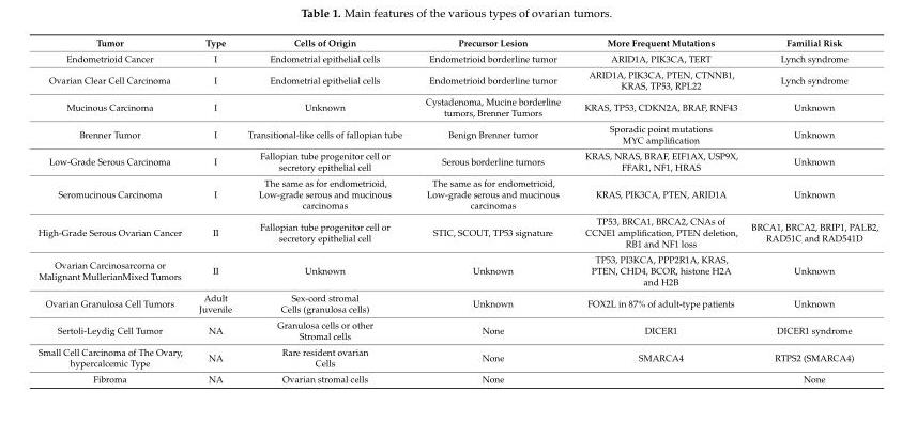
<table><thead><tr><td>Tumor</td><td>Type</td><td>Cells of Origin</td><td>Precursor Lesion</td><td>More Frequent Mutations</td><td>Familial Risk</td></tr></thead><tbody><tr><td>Endometrioid Cancer</td><td>I</td><td>Endometrial epithelial cells</td><td>Endometrioid borderline tumor</td><td>ARID1A, PIK3CA, TERT</td><td>Lynch syndrome</td></tr><tr><td>Ovarian Clear Cell Carcinoma</td><td>I</td><td>Endometrial epithelial cells</td><td>Endometrioid borderline tumor</td><td>ARID1A, PIK3CA, PTEN, CTNNB1, KRAS, TP53, RPL22</td><td>Lynch syndrome</td></tr><tr><td>Mucinous Carcinoma</td><td>I</td><td>Unknown</td><td>Cystadenoma, Mucine borderline tumors, Brenner Tumors</td><td>KRAS, TP53, CDKN2A, BRAF, RNF43</td><td>Unknown</td></tr><tr><td>Brenner Tumor</td><td>I</td><td>Transitional-like cells of fallopian tube</td><td>Benign Brenner tumor</td><td>Sporadic point mutations MYC amplification</td><td>Unknown</td></tr><tr><td>Low-Grade Serous Carcinoma</td><td>I</td><td>Fallopian tube progenitor cell or secretory epithelial cell</td><td>Serous borderline tumors</td><td>KRAS, NRAS, BRAF, EIF1AX, USP9X, FFAR1, NF1, HRAS</td><td>Unknown</td></tr><tr><td>Seromucinous Carcinoma</td><td>I</td><td>The same as for endometrioid, Low-grade serous and mucinous carcinomas</td><td>The same as for endometrioid, Low-grade serous and mucinous carcinomas</td><td>KRAS, PIK3CA, PTEN, ARID1A</td><td>Unknown</td></tr><tr><td>High-Grade Serous Ovarian Cancer</td><td>II</td><td>Fallopian tube progenitor cell or secretory epithelial cell</td><td>STIC, SCOUT, TP53 signature</td><td>TP53, BRCA1, BRCA2, CNAs of CCNE1 amplification, PTEN deletion, RB1 and NF1 loss</td><td>BRCA1, BRCA2, BRIP1, PALB2, RAD51C and RAD541D</td></tr><tr><td>Ovarian Carcinosarcoma or Malignant MullerianMixed Tumors</td><td>II</td><td>Unknown</td><td>Unknown</td><td>TP53, PI3KCA, PPP2R1A, KRAS, PTEN, CHD4, BCOR, histone H2A and H2B</td><td>Unknown</td></tr><tr><td>Ovarian Granulosa Cell Tumors</td><td>Adult Juvenile</td><td>Sex-cord stromal Cells (granulosa cells)</td><td>Unknown</td><td>FOX2L in 87% of adult-type patients</td><td>Unknown</td></tr><tr><td>Sertoli-Leydig Cell Tumor</td><td>NA</td><td>Granulosa cells or other Stromal cells</td><td>None</td><td>DICER1</td><td>DICER1 syndrome</td></tr><tr><td>Small Cell Carcinoma of The Ovary, hypercalcemic Type</td><td>NA</td><td>Rare resident ovarian Cells</td><td>None</td><td>SMARCA4</td><td>RTPS2 (SMARCA4)</td></tr><tr><td>Fibroma</td><td>NA</td><td>Ovarian stromal cells</td><td>None</td><td></td><td>None</td></tr></tbody></table>